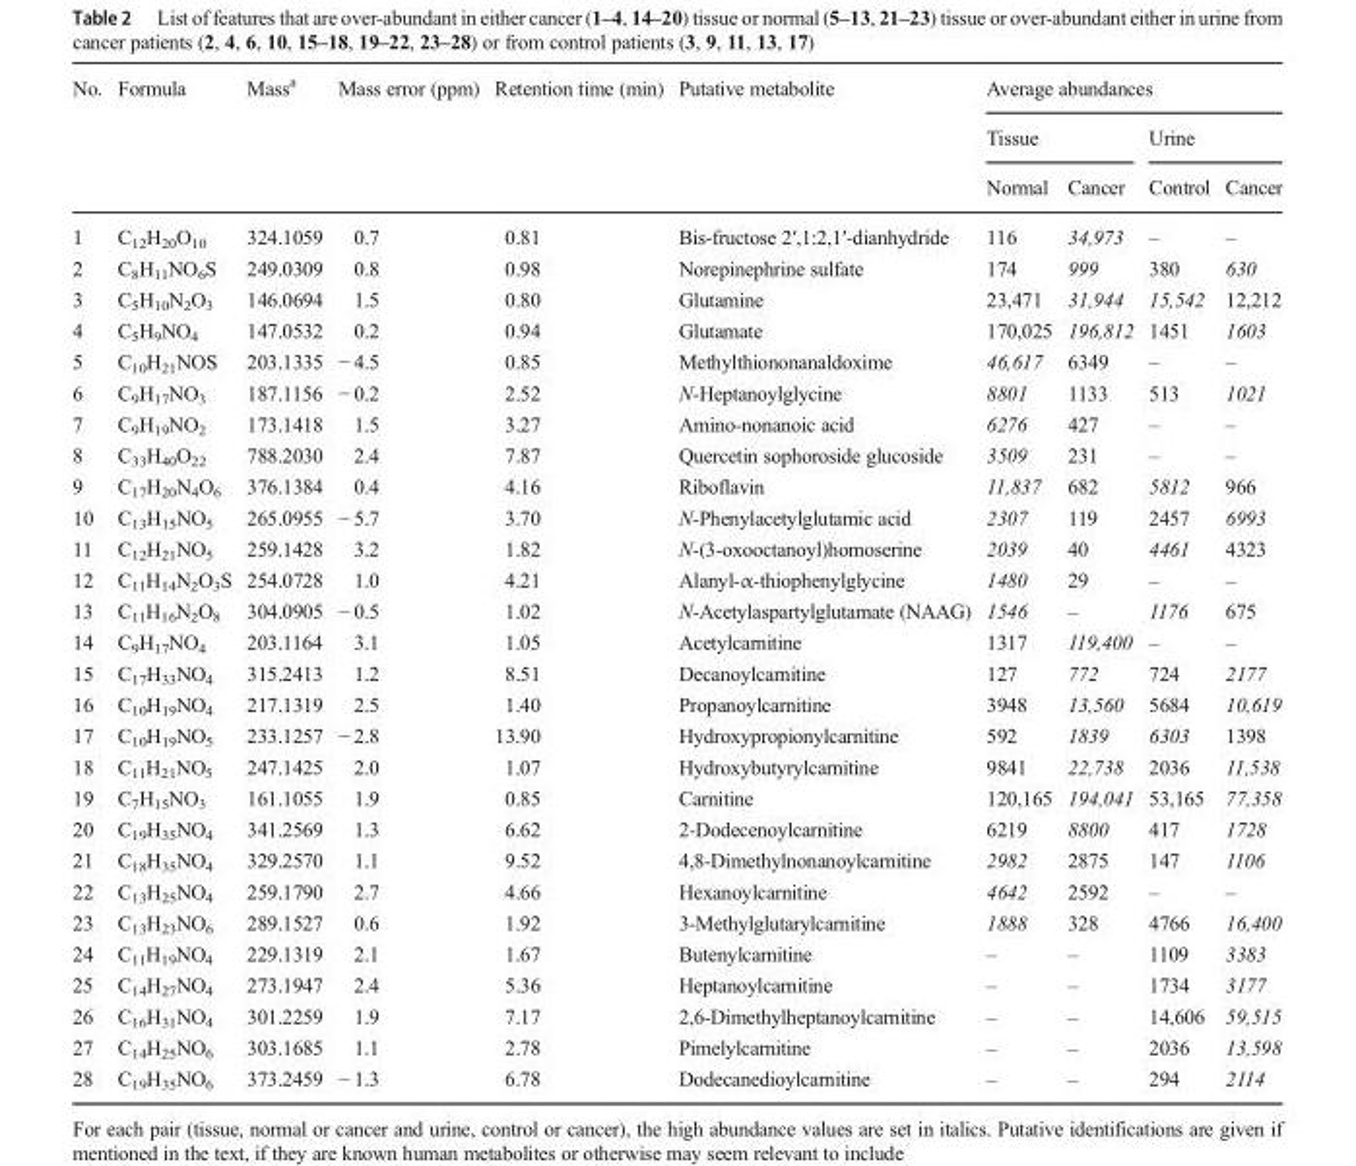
<table><thead><tr><td rowspan="3">No.</td><td rowspan="3">Formula</td><td rowspan="3">Mass<sup>a</sup></td><td rowspan="3">Mass error (ppm)</td><td rowspan="3">Retention time (min)</td><td rowspan="3">Putative metabolite</td><td colspan="4">Average abundances</td></tr><tr><td colspan="2">Tissue</td><td colspan="2">Urine</td></tr><tr><td>Normal</td><td>Cancer</td><td>Control</td><td>Cancer</td></tr></thead><tbody><tr><td>1</td><td>C<sub>12</sub>H<sub>20</sub>O<sub>10</sub></td><td>324.1059</td><td>0.7</td><td>0.81</td><td>Bis-fructose 2′,1:2,1′-dianhydride</td><td>116</td><td>34,973</td><td>–</td><td>–</td></tr><tr><td>2</td><td>C<sub>8</sub>H<sub>11</sub>NO<sub>6</sub>S</td><td>249.0309</td><td>0.8</td><td>0.98</td><td>Norepinephrine sulfate</td><td>174</td><td>999</td><td>380</td><td>630</td></tr><tr><td>3</td><td>C<sub>5</sub>H<sub>10</sub>N<sub>2</sub>O<sub>3</sub></td><td>146.0694</td><td>1.5</td><td>0.80</td><td>Glutamine</td><td>23,471</td><td>31,944</td><td>15,542</td><td>12,212</td></tr><tr><td>4</td><td>C<sub>5</sub>H<sub>9</sub>NO<sub>4</sub></td><td>147.0532</td><td>0.2</td><td>0.94</td><td>Glutamate</td><td>170,025</td><td>196,812</td><td>1451</td><td>1603</td></tr><tr><td>5</td><td>C<sub>10</sub>H<sub>21</sub>NOS</td><td>203.1335</td><td>− 4.5</td><td>0.85</td><td>Methylthiononanaldoxime</td><td>46,617</td><td>6349</td><td>–</td><td>–</td></tr><tr><td>6</td><td>C<sub>9</sub>H<sub>17</sub>NO<sub>3</sub></td><td>187.1156</td><td>− 0.2</td><td>2.52</td><td>N-Heptanoylglycine</td><td>8801</td><td>1133</td><td>513</td><td>1021</td></tr><tr><td>7</td><td>C<sub>9</sub>H<sub>19</sub>NO<sub>2</sub></td><td>173.1418</td><td>1.5</td><td>3.27</td><td>Amino-nonanoic acid</td><td>6276</td><td>427</td><td>–</td><td>–</td></tr><tr><td>8</td><td>C<sub>33</sub>H<sub>40</sub>O<sub>22</sub></td><td>788.2030</td><td>2.4</td><td>7.87</td><td>Quercetin sophoroside glucoside</td><td>3509</td><td>231</td><td>–</td><td>–</td></tr><tr><td>9</td><td>C<sub>17</sub>H<sub>20</sub>N<sub>4</sub>O<sub>6</sub></td><td>376.1384</td><td>0.4</td><td>4.16</td><td>Riboflavin</td><td>11,837</td><td>682</td><td>5812</td><td>966</td></tr><tr><td>10</td><td>C<sub>13</sub>H<sub>15</sub>NO<sub>5</sub></td><td>265.0955</td><td>− 5.7</td><td>3.70</td><td>N-Phenylacetylglutamic acid</td><td>2307</td><td>119</td><td>2457</td><td>6993</td></tr><tr><td>11</td><td>C<sub>12</sub>H<sub>21</sub>NO<sub>5</sub></td><td>259.1428</td><td>3.2</td><td>1.82</td><td>N-(3-oxooctanoyl)homoserine</td><td>2039</td><td>40</td><td>4461</td><td>4323</td></tr><tr><td>12</td><td>C<sub>11</sub>H<sub>14</sub>N<sub>2</sub>O<sub>3</sub>S</td><td>254.0728</td><td>1.0</td><td>4.21</td><td>Alanyl-α-thiophenylglycine</td><td>1480</td><td>29</td><td>–</td><td>–</td></tr><tr><td>13</td><td>C<sub>11</sub>H<sub>16</sub>N<sub>2</sub>O<sub>8</sub></td><td>304.0905</td><td>− 0.5</td><td>1.02</td><td>N-Acetylaspartylglutamate (NAAG)</td><td>1546</td><td>–</td><td>1176</td><td>675</td></tr><tr><td>14</td><td>C<sub>9</sub>H<sub>17</sub>NO<sub>4</sub></td><td>203.1164</td><td>3.1</td><td>1.05</td><td>Acetylcarnitine</td><td>1317</td><td>119,400</td><td>–</td><td>–</td></tr><tr><td>15</td><td>C<sub>17</sub>H<sub>33</sub>NO<sub>4</sub></td><td>315.2413</td><td>1.2</td><td>8.51</td><td>Decanoylcarnitine</td><td>127</td><td>772</td><td>724</td><td>2177</td></tr><tr><td>16</td><td>C<sub>10</sub>H<sub>19</sub>NO<sub>4</sub></td><td>217.1319</td><td>2.5</td><td>1.40</td><td>Propanoylcarnitine</td><td>3948</td><td>13,560</td><td>5684</td><td>10,619</td></tr><tr><td>17</td><td>C<sub>10</sub>H<sub>19</sub>NO<sub>5</sub></td><td>233.1257</td><td>− 2.8</td><td>13.90</td><td>Hydroxypropionylcarnitine</td><td>592</td><td>1839</td><td>6303</td><td>1398</td></tr><tr><td>18</td><td>C<sub>11</sub>H<sub>21</sub>NO<sub>5</sub></td><td>247.1425</td><td>2.0</td><td>1.07</td><td>Hydroxybutyrylcarnitine</td><td>9841</td><td>22,738</td><td>2036</td><td>11,538</td></tr><tr><td>19</td><td>C<sub>7</sub>H<sub>15</sub>NO<sub>3</sub></td><td>161.1055</td><td>1.9</td><td>0.85</td><td>Carnitine</td><td>120,165</td><td>194,041</td><td>53,165</td><td>77,358</td></tr><tr><td>20</td><td>C<sub>19</sub>H<sub>35</sub>NO<sub>4</sub></td><td>341.2569</td><td>1.3</td><td>6.62</td><td>2-Dodecenoylcarnitine</td><td>6219</td><td>8800</td><td>417</td><td>1728</td></tr><tr><td>21</td><td>C<sub>18</sub>H<sub>35</sub>NO<sub>4</sub></td><td>329.2570</td><td>1.1</td><td>9.52</td><td>4,8-Dimethylnonanoylcarnitine</td><td>2982</td><td>2875</td><td>147</td><td>1106</td></tr><tr><td>22</td><td>C<sub>13</sub>H<sub>25</sub>NO<sub>4</sub></td><td>259.1790</td><td>2.7</td><td>4.66</td><td>Hexanoylcarnitine</td><td>4642</td><td>2592</td><td>–</td><td>–</td></tr><tr><td>23</td><td>C<sub>13</sub>H<sub>23</sub>NO<sub>6</sub></td><td>289.1527</td><td>0.6</td><td>1.92</td><td>3-Methylglutarylcarnitine</td><td>1888</td><td>328</td><td>4766</td><td>16,400</td></tr><tr><td>24</td><td>C<sub>11</sub>H<sub>19</sub>NO<sub>4</sub></td><td>229.1319</td><td>2.1</td><td>1.67</td><td>Butenylcarnitine</td><td>–</td><td>–</td><td>1109</td><td>3383</td></tr><tr><td>25</td><td>C<sub>14</sub>H<sub>27</sub>NO<sub>4</sub></td><td>273.1947</td><td>2.4</td><td>5.36</td><td>Heptanoylcarnitine</td><td>–</td><td>–</td><td>1734</td><td>3177</td></tr><tr><td>26</td><td>C<sub>16</sub>H<sub>31</sub>NO<sub>4</sub></td><td>301.2259</td><td>1.9</td><td>7.17</td><td>2,6-Dimethylheptanoylcarnitine</td><td>–</td><td>–</td><td>14,606</td><td>59,515</td></tr><tr><td>27</td><td>C<sub>14</sub>H<sub>25</sub>NO<sub>6</sub></td><td>303.1685</td><td>1.1</td><td>2.78</td><td>Pimelylcarnitine</td><td>–</td><td>–</td><td>2036</td><td>13,598</td></tr><tr><td>28</td><td>C<sub>19</sub>H<sub>35</sub>NO<sub>6</sub></td><td>373.2459</td><td>− 1.3</td><td>6.78</td><td>Dodecanedioylcarnitine</td><td>–</td><td>–</td><td>294</td><td>2114</td></tr></tbody></table>